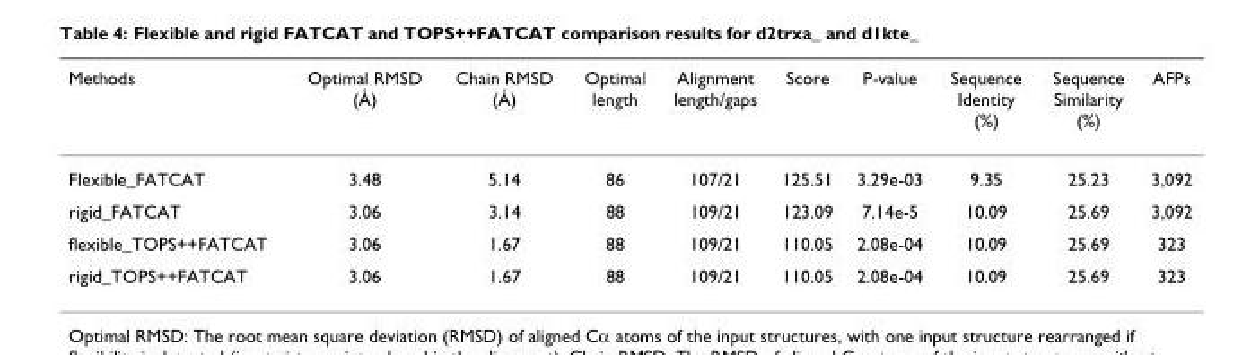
<table><thead><tr><td>Methods</td><td>Optimal RMSD (Å)</td><td>Chain RMSD (Å)</td><td>Optimal length</td><td>Alignment length/gaps</td><td>Score</td><td>P-value</td><td>Sequence Identity (%)</td><td>Sequence Similarity (%)</td><td>AFPs</td></tr></thead><tbody><tr><td>Flexible_FATCAT</td><td>3.48</td><td>5.14</td><td>86</td><td>107/21</td><td>125.51</td><td>3.29e-03</td><td>9.35</td><td>25.23</td><td>3,092</td></tr><tr><td>rigid_FATCAT</td><td>3.06</td><td>3.14</td><td>88</td><td>109/21</td><td>123.09</td><td>7.14e-5</td><td>10.09</td><td>25.69</td><td>3,092</td></tr><tr><td>flexible_TOPS++FATCAT</td><td>3.06</td><td>1.67</td><td>88</td><td>109/21</td><td>110.05</td><td>2.08e-04</td><td>10.09</td><td>25.69</td><td>323</td></tr><tr><td>rigid_TOPS++FATCAT</td><td>3.06</td><td>1.67</td><td>88</td><td>109/21</td><td>110.05</td><td>2.08e-04</td><td>10.09</td><td>25.69</td><td>323</td></tr></tbody></table>